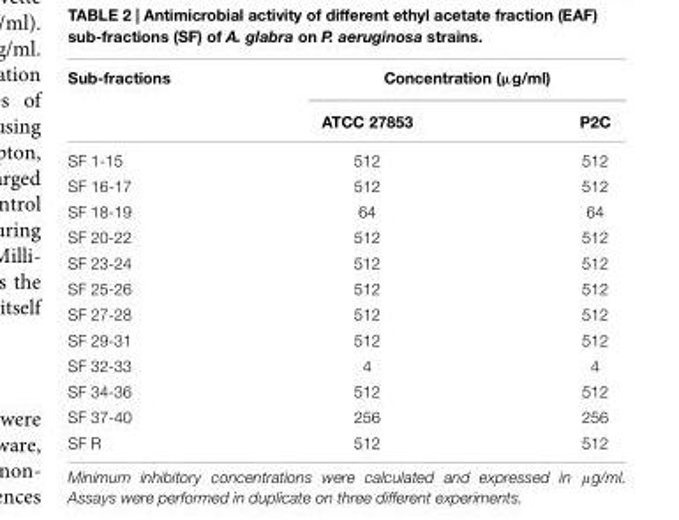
<table><thead><tr><td rowspan="2">Sub-fractions</td><td colspan="2">Concentration (µg/ml)</td></tr><tr><td>ATCC 27853</td><td>P2C</td></tr></thead><tbody><tr><td>SF 1-15</td><td>512</td><td>512</td></tr><tr><td>SF 16-17</td><td>512</td><td>512</td></tr><tr><td>SF 18-19</td><td>64</td><td>64</td></tr><tr><td>SF 20-22</td><td>512</td><td>512</td></tr><tr><td>SF 23-24</td><td>512</td><td>512</td></tr><tr><td>SF 25-26</td><td>512</td><td>512</td></tr><tr><td>SF 27-28</td><td>512</td><td>512</td></tr><tr><td>SF 29-31</td><td>512</td><td>512</td></tr><tr><td>SF 32-33</td><td>4</td><td>4</td></tr><tr><td>SF 34-36</td><td>512</td><td>512</td></tr><tr><td>SF 37-40</td><td>256</td><td>256</td></tr><tr><td>SF R</td><td>512</td><td>512</td></tr></tbody></table>